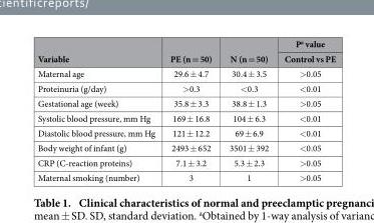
<table><thead><tr><td rowspan="2">Variable</td><td rowspan="2">PE (n = 50)</td><td rowspan="2">N (n = 50)</td><td rowspan="2">P<sup>a</sup> value Control vs PE</td></tr><tr></tr></thead><tbody><tr><td>Maternal age</td><td>29.6 ± 4.7</td><td>30.4 ± 3.5</td><td>&gt; 0.05</td></tr><tr><td>Proteinuria (g/day)</td><td>&gt; 0.3</td><td>&lt; 0.3</td><td>&lt; 0.01</td></tr><tr><td>Gestational age (week)</td><td>35.8 ± 3.3</td><td>38.8 ± 1.3</td><td>&gt; 0.05</td></tr><tr><td>Systolic blood pressure, mm Hg</td><td>169 ± 16.8</td><td>104 ± 6.3</td><td>&lt; 0.01</td></tr><tr><td>Diastolic blood pressure, mm Hg</td><td>121 ± 12.2</td><td>69 ± 6.9</td><td>&lt; 0.01</td></tr><tr><td>Body weight of infant (g)</td><td>2493 ± 652</td><td>3501 ± 392</td><td>&lt; 0.05</td></tr><tr><td>CRP (C-reaction proteins)</td><td>7.1 ± 3.2</td><td>5.3 ± 2.3</td><td>&gt; 0.05</td></tr><tr><td>Maternal smoking (number)</td><td>3</td><td>1</td><td>&gt; 0.05</td></tr></tbody></table>